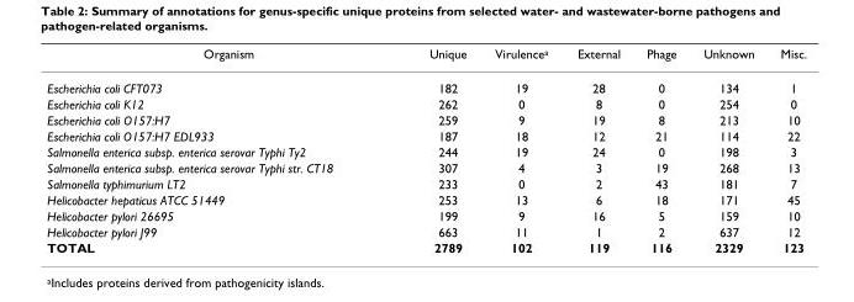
<table><thead><tr><td>Organism</td><td>Unique</td><td>Virulence<sup>a</sup></td><td>External</td><td>Phage</td><td>Unknown</td><td>Misc.</td></tr></thead><tbody><tr><td>Escherichia coli CFT073</td><td>182</td><td>19</td><td>28</td><td>0</td><td>134</td><td>1</td></tr><tr><td>Escherichia coli K12</td><td>262</td><td>0</td><td>8</td><td>0</td><td>254</td><td>0</td></tr><tr><td>Escherichia coli O157:H7</td><td>259</td><td>9</td><td>19</td><td>8</td><td>213</td><td>10</td></tr><tr><td>Escherichia coli O157:H7 EDL933</td><td>187</td><td>18</td><td>12</td><td>21</td><td>114</td><td>22</td></tr><tr><td>Salmonella enterica subsp. enterica serovar Typhi Ty2</td><td>244</td><td>19</td><td>24</td><td>0</td><td>198</td><td>3</td></tr><tr><td>Salmonella enterica subsp. enterica serovar Typhi str. CT18</td><td>307</td><td>4</td><td>3</td><td>19</td><td>268</td><td>13</td></tr><tr><td>Salmonella typhimurium LT2</td><td>233</td><td>0</td><td>2</td><td>43</td><td>181</td><td>7</td></tr><tr><td>Helicobacter hepaticus ATCC 51449</td><td>253</td><td>13</td><td>6</td><td>18</td><td>171</td><td>45</td></tr><tr><td>Helicobacter pylori 26695</td><td>199</td><td>9</td><td>16</td><td>5</td><td>159</td><td>10</td></tr><tr><td>Helicobacter pylori J99</td><td>663</td><td>11</td><td>1</td><td>2</td><td>637</td><td>12</td></tr><tr><td>TOTAL</td><td>2789</td><td>102</td><td>119</td><td>116</td><td>2329</td><td>123</td></tr></tbody></table>